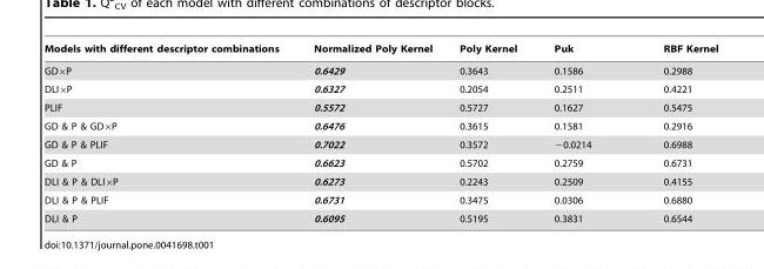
<table><thead><tr><td>Models with different descriptor combinations</td><td>Normalized Poly Kernel</td><td>Poly Kernel</td><td>Puk</td><td>RBF Kernel</td></tr></thead><tbody><tr><td>GD×P</td><td>0.6429</td><td>0.3643</td><td>0.1586</td><td>0.2988</td></tr><tr><td>DLI×P</td><td>0.6327</td><td>0.2054</td><td>0.2511</td><td>0.4221</td></tr><tr><td>PLIF</td><td>0.5572</td><td>0.5727</td><td>0.1627</td><td>0.5475</td></tr><tr><td>GD &amp; P &amp; GD×P</td><td>0.6476</td><td>0.3615</td><td>0.1581</td><td>0.2916</td></tr><tr><td>GD &amp; P &amp; PLIF</td><td>0.7022</td><td>0.3572</td><td>−0.0214</td><td>0.6988</td></tr><tr><td>GD &amp; P</td><td>0.6623</td><td>0.5702</td><td>0.2759</td><td>0.6731</td></tr><tr><td>DLI &amp; P &amp; DLI×P</td><td>0.6273</td><td>0.2243</td><td>0.2509</td><td>0.4155</td></tr><tr><td>DLI &amp; P &amp; PLIF</td><td>0.6731</td><td>0.3475</td><td>0.0306</td><td>0.6880</td></tr><tr><td>DLI &amp; P</td><td>0.6095</td><td>0.5195</td><td>0.3831</td><td>0.6544</td></tr></tbody></table>